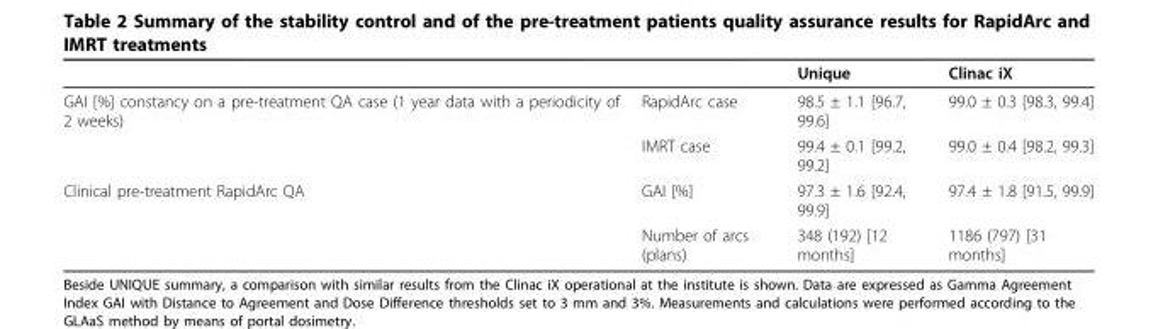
<table><thead><tr><td></td><td></td><td>Unique</td><td>Clinac iX</td></tr></thead><tbody><tr><td rowspan="2">GAI [%] constancy on a pre-treatment QA case (1 year data with a periodicity of 2 weeks)</td><td>RapidArc case</td><td>98.5 ± 1.1 [96.7, 99.6]</td><td>99.0 ± 0.3 [98.3, 99.4]</td></tr><tr><td>IMRT case</td><td>99.4 ± 0.1 [99.2, 99.2]</td><td>99.0 ± 0.4 [98.2, 99.3]</td></tr><tr><td rowspan="2">Clinical pre-treatment RapidArc QA</td><td>GAI [%]</td><td>97.3 ± 1.6 [92.4, 99.9]</td><td>97.4 ± 1.8 [91.5, 99.9]</td></tr><tr><td>Number of arcs (plans)</td><td>348 (192) [12 months]</td><td>1186 (797) [31 months]</td></tr></tbody></table>